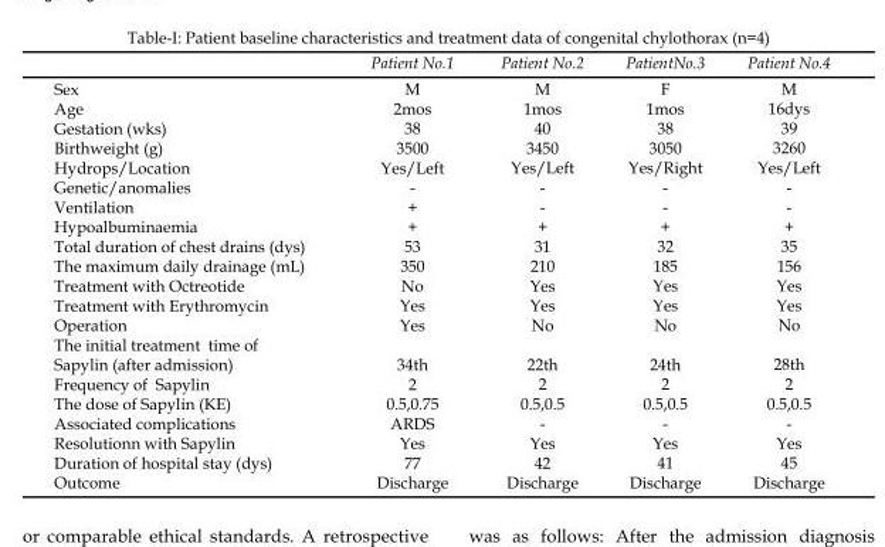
<table><thead><tr><td></td><td>Patient No.1</td><td>Patient No.2</td><td>PatientNo.3</td><td>Patient No.4</td></tr></thead><tbody><tr><td>Sex</td><td>M</td><td>M</td><td>F</td><td>M</td></tr><tr><td>Age</td><td>2mos</td><td>1mos</td><td>1mos</td><td>16dys</td></tr><tr><td>Gestation (wks)</td><td>38</td><td>40</td><td>38</td><td>39</td></tr><tr><td>Birthweight (g)</td><td>3500</td><td>3450</td><td>3050</td><td>3260</td></tr><tr><td>Hydrops/Location</td><td>Yes/Left</td><td>Yes/Left</td><td>Yes/Right</td><td>Yes/Left</td></tr><tr><td>Genetic/anomalies</td><td>-</td><td>-</td><td>-</td><td>-</td></tr><tr><td>Ventilation</td><td>+</td><td>-</td><td>-</td><td>-</td></tr><tr><td>Hypoalbuminaemia</td><td>+</td><td>+</td><td>+</td><td>+</td></tr><tr><td>Total duration of chest drains (dys)</td><td>53</td><td>31</td><td>32</td><td>35</td></tr><tr><td>The maximum daily drainage (mL)</td><td>350</td><td>210</td><td>185</td><td>156</td></tr><tr><td>Treatment with Octreotide</td><td>No</td><td>Yes</td><td>Yes</td><td>Yes</td></tr><tr><td>Treatment with Erythromycin</td><td>Yes</td><td>Yes</td><td>Yes</td><td>Yes</td></tr><tr><td>Operation</td><td>Yes</td><td>No</td><td>No</td><td>No</td></tr><tr><td>The initial treatment time of Sapylin (after admission)</td><td>34th</td><td>22th</td><td>24th</td><td>28th</td></tr><tr><td>Frequency of Sapylin</td><td>2</td><td>2</td><td>2</td><td>2</td></tr><tr><td>The dose of Sapylin (KE)</td><td>0.5,0.75</td><td>0.5,0.5</td><td>0.5,0.5</td><td>0.5,0.5</td></tr><tr><td>Associated complications</td><td>ARDS</td><td>-</td><td>-</td><td>-</td></tr><tr><td>Resolutionn with Sapylin</td><td>Yes</td><td>Yes</td><td>Yes</td><td>Yes</td></tr><tr><td>Duration of hospital stay (dys)</td><td>77</td><td>42</td><td>41</td><td>45</td></tr><tr><td>Outcome</td><td>Discharge</td><td>Discharge</td><td>Discharge</td><td>Discharge</td></tr></tbody></table>